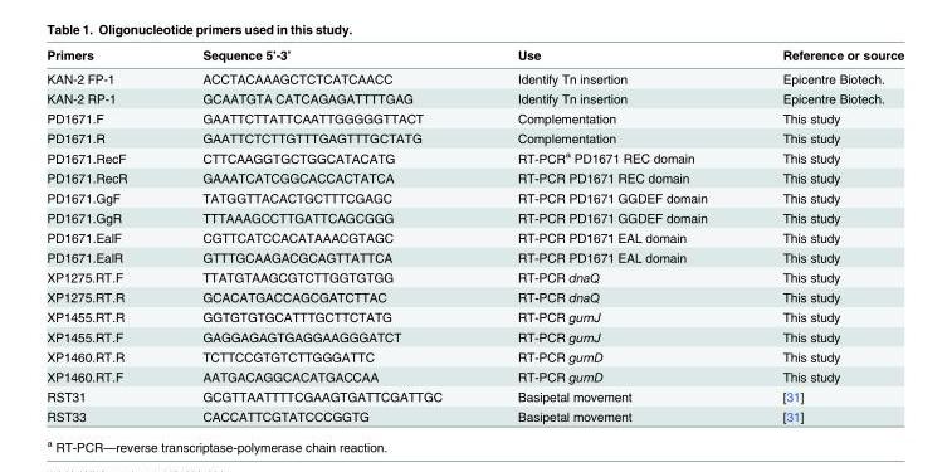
<table><thead><tr><td>Primers</td><td>Sequence 5’-3’</td><td>Use</td><td>Reference or source</td></tr></thead><tbody><tr><td>KAN-2 FP-1</td><td>ACCTACAAAGCTCTCATCAACC</td><td>Identify Tn insertion</td><td>Epicentre Biotech.</td></tr><tr><td>KAN-2 RP-1</td><td>GCAATGTA CATCAGAGATTTTGAG</td><td>Identify Tn insertion</td><td>Epicentre Biotech.</td></tr><tr><td>PD1671.F</td><td>GAATTCTTATTCAATTGGGGGTTACT</td><td>Complementation</td><td>This study</td></tr><tr><td>PD1671.R</td><td>GAATTCTCTTGTTTGAGTTTGCTATG</td><td>Complementation</td><td>This study</td></tr><tr><td>PD1671.RecF</td><td>CTTCAAGGTGCTGGCATACATG</td><td>RT-PCR<sup>a</sup> PD1671 REC domain</td><td>This study</td></tr><tr><td>PD1671.RecR</td><td>GAAATCATCGGCACCACTATCA</td><td>RT-PCR PD1671 REC domain</td><td>This study</td></tr><tr><td>PD1671.GgF</td><td>TATGGTTACACTGCTTTCGAGC</td><td>RT-PCR PD1671 GGDEF domain</td><td>This study</td></tr><tr><td>PD1671.GgR</td><td>TTTAAAGCCTTGATTCAGCGGG</td><td>RT-PCR PD1671 GGDEF domain</td><td>This study</td></tr><tr><td>PD1671.EalF</td><td>CGTTCATCCACATAAACGTAGC</td><td>RT-PCR PD1671 EAL domain</td><td>This study</td></tr><tr><td>PD1671.EalR</td><td>GTTTGCAAGACGCAGTTATTCA</td><td>RT-PCR PD1671 EAL domain</td><td>This study</td></tr><tr><td>XP1275.RT.F</td><td>TTATGTAAGCGTCTTGGTGTGG</td><td>RT-PCR dnaQ</td><td>This study</td></tr><tr><td>XP1275.RT.R</td><td>GCACATGACCAGCGATCTTAC</td><td>RT-PCR dnaQ</td><td>This study</td></tr><tr><td>XP1455.RT.R</td><td>GGTGTGTGCATTTGCTTCTATG</td><td>RT-PCR gumJ</td><td>This study</td></tr><tr><td>XP1455.RT.F</td><td>GAGGAGAGTGAGGAAGGGATCT</td><td>RT-PCR gumJ</td><td>This study</td></tr><tr><td>XP1460.RT.R</td><td>TCTTCCGTGTCTTGGGATTC</td><td>RT-PCR gumD</td><td>This study</td></tr><tr><td>XP1460.RT.F</td><td>AATGACAGGCACATGACCAA</td><td>RT-PCR gumD</td><td>This study</td></tr><tr><td>RST31</td><td>GCGTTAATTTTCGAAGTGATTCGATTGC</td><td>Basipetal movement</td><td>[31]</td></tr><tr><td>RST33</td><td>CACCATTCGTATCCCGGTG</td><td>Basipetal movement</td><td>[31]</td></tr></tbody></table>